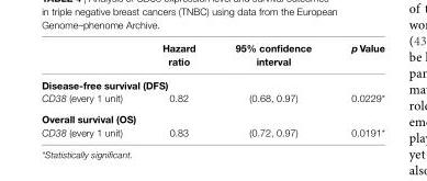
<table><thead><tr><td></td><td>hazard ratio</td><td>95% confidence interval</td><td>p Value</td></tr></thead><tbody><tr><td colspan="4">Disease-free survival (DFs)</td></tr><tr><td>CD38 (every 1 unit)</td><td>0.82</td><td>(0.68, 0.97)</td><td>0.0229*</td></tr><tr><td colspan="4">Overall survival (Os)</td></tr><tr><td>CD38 (every 1 unit)</td><td>0.83</td><td>(0.72, 0.97)</td><td>0.0191*</td></tr></tbody></table>